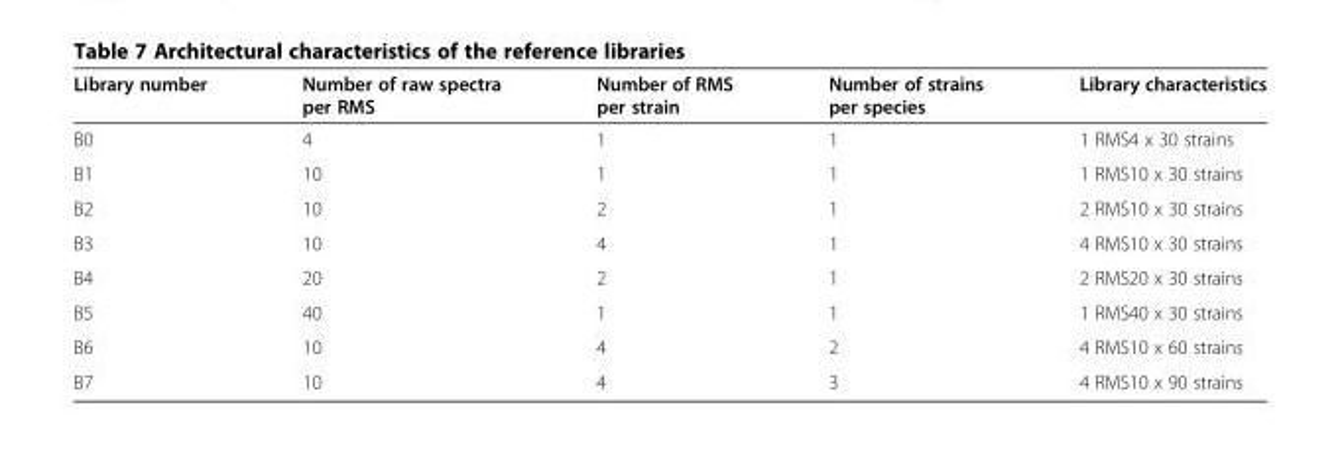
<table><thead><tr><td>Library number</td><td>Number of raw spectra per RMS</td><td>Number of RMS per strain</td><td>Number of strains per species</td><td>Library characteristics</td></tr></thead><tbody><tr><td>B0</td><td>4</td><td>1</td><td>1</td><td>1 RMS4 x 30 strains</td></tr><tr><td>B1</td><td>10</td><td>1</td><td>1</td><td>1 RMS10 x 30 strains</td></tr><tr><td>B2</td><td>10</td><td>2</td><td>1</td><td>2 RMS10 x 30 strains</td></tr><tr><td>B3</td><td>10</td><td>4</td><td>1</td><td>4 RMS10 x 30 strains</td></tr><tr><td>B4</td><td>20</td><td>2</td><td>1</td><td>2 RMS20 x 30 strains</td></tr><tr><td>B5</td><td>40</td><td>1</td><td>1</td><td>1 RMS40 x 30 strains</td></tr><tr><td>B6</td><td>10</td><td>4</td><td>2</td><td>4 RMS10 x 60 strains</td></tr><tr><td>B7</td><td>10</td><td>4</td><td>3</td><td>4 RMS10 x 90 strains</td></tr></tbody></table>